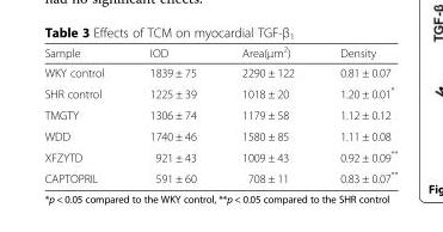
<table><thead><tr><td>Sample</td><td>IOD</td><td>Area(μm<sup>2</sup>)</td><td>Density</td></tr></thead><tbody><tr><td>WKY control</td><td>1839 ± 75</td><td>2290 ± 122</td><td>0.81 ± 0.07</td></tr><tr><td>SHR control</td><td>1225 ± 39</td><td>1018 ± 20</td><td>1.20 ± 0.01*</td></tr><tr><td>TMGTY</td><td>1306 ± 74</td><td>1179 ± 58</td><td>1.12 ± 0.12</td></tr><tr><td>WDD</td><td>1740 ± 46</td><td>1580 ± 85</td><td>1.11 ± 0.08</td></tr><tr><td>XFZYTD</td><td>921 ± 43</td><td>1009 ± 43</td><td>0.92 ± 0.09**</td></tr><tr><td>CAPTOPRIL</td><td>591 ± 60</td><td>708 ± 11</td><td>0.83 ± 0.07**</td></tr></tbody></table>